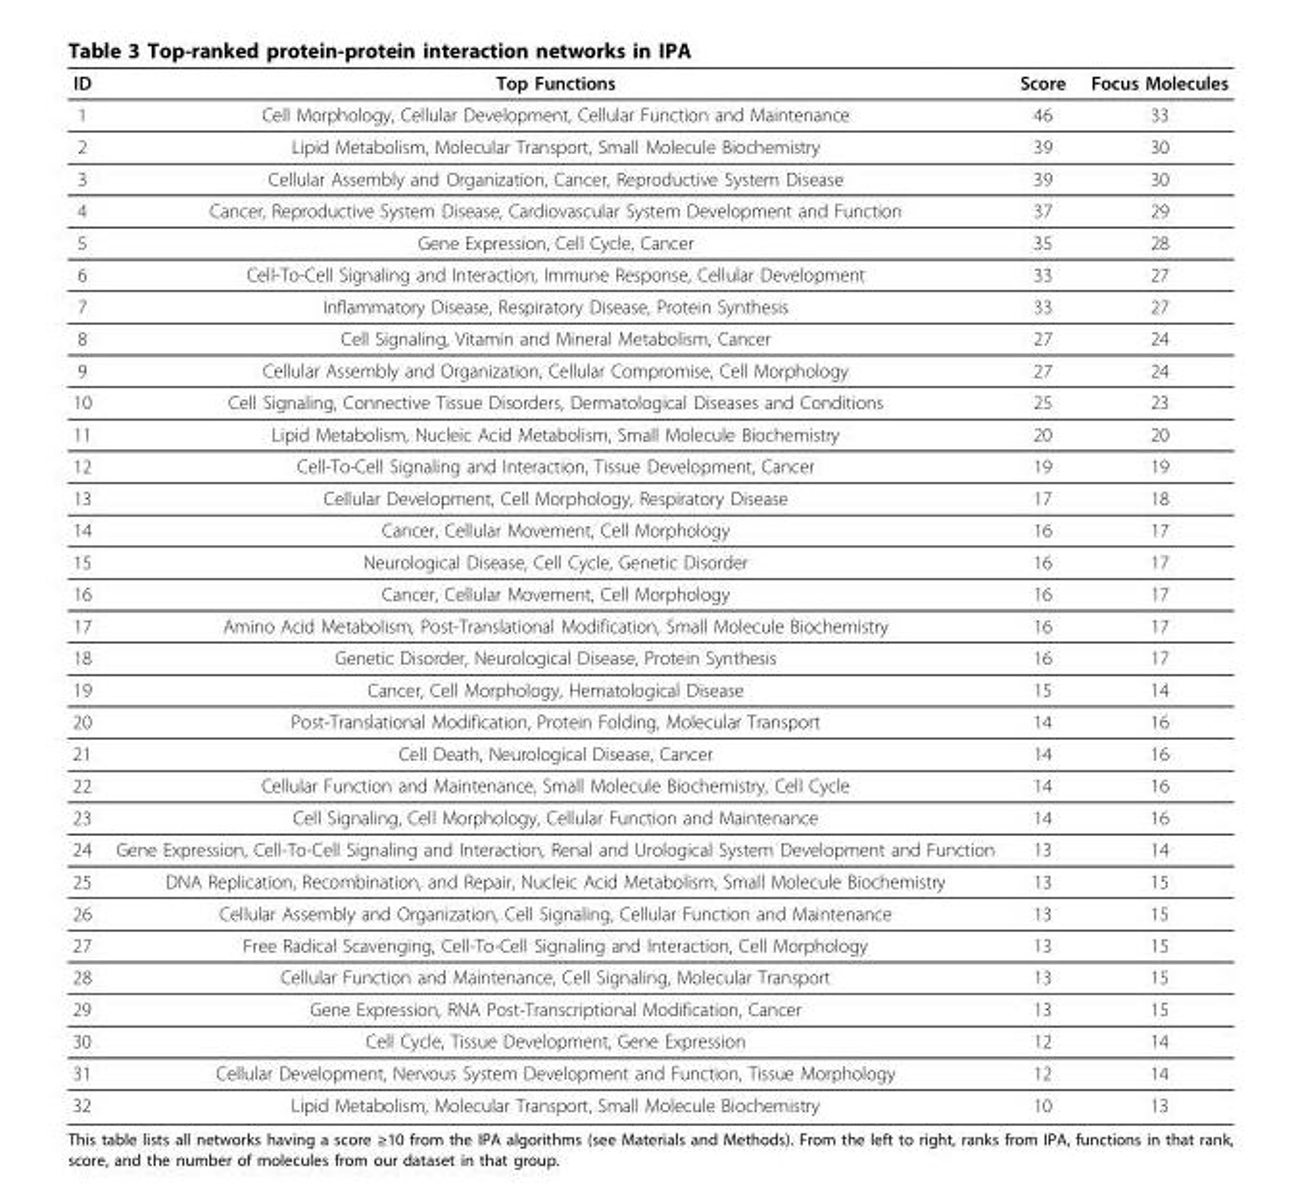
<table><thead><tr><td>ID</td><td>Top Functions</td><td>Score</td><td>Focus Molecules</td></tr></thead><tbody><tr><td>1</td><td>Cell Morphology, Cellular Development, Cellular Function and Maintenance</td><td>46</td><td>33</td></tr><tr><td>2</td><td>Lipid Metabolism, Molecular Transport, Small Molecule Biochemistry</td><td>39</td><td>30</td></tr><tr><td>3</td><td>Cellular Assembly and Organization, Cancer, Reproductive System Disease</td><td>39</td><td>30</td></tr><tr><td>4</td><td>Cancer, Reproductive System Disease, Cardiovascular System Development and Function</td><td>37</td><td>29</td></tr><tr><td>5</td><td>Gene Expression, Cell Cycle, Cancer</td><td>35</td><td>28</td></tr><tr><td>6</td><td>Cell-To-Cell Signaling and Interaction, Immune Response, Cellular Development</td><td>33</td><td>27</td></tr><tr><td>7</td><td>Inflammatory Disease, Respiratory Disease, Protein Synthesis</td><td>33</td><td>27</td></tr><tr><td>8</td><td>Cell Signaling, Vitamin and Mineral Metabolism, Cancer</td><td>27</td><td>24</td></tr><tr><td>9</td><td>Cellular Assembly and Organization, Cellular Compromise, Cell Morphology</td><td>27</td><td>24</td></tr><tr><td>10</td><td>Cell Signaling, Connective Tissue Disorders, Dermatological Diseases and Conditions</td><td>25</td><td>23</td></tr><tr><td>11</td><td>Lipid Metabolism, Nucleic Acid Metabolism, Small Molecule Biochemistry</td><td>20</td><td>20</td></tr><tr><td>12</td><td>Cell-To-Cell Signaling and Interaction, Tissue Development, Cancer</td><td>19</td><td>19</td></tr><tr><td>13</td><td>Cellular Development, Cell Morphology, Respiratory Disease</td><td>17</td><td>18</td></tr><tr><td>14</td><td>Cancer, Cellular Movement, Cell Morphology</td><td>16</td><td>17</td></tr><tr><td>15</td><td>Neurological Disease, Cell Cycle, Genetic Disorder</td><td>16</td><td>17</td></tr><tr><td>16</td><td>Cancer, Cellular Movement, Cell Morphology</td><td>16</td><td>17</td></tr><tr><td>17</td><td>Amino Acid Metabolism, Post-Translational Modification, Small Molecule Biochemistry</td><td>16</td><td>17</td></tr><tr><td>18</td><td>Genetic Disorder, Neurological Disease, Protein Synthesis</td><td>16</td><td>17</td></tr><tr><td>19</td><td>Cancer, Cell Morphology, Hematological Disease</td><td>15</td><td>14</td></tr><tr><td>20</td><td>Post-Translational Modification, Protein Folding, Molecular Transport</td><td>14</td><td>16</td></tr><tr><td>21</td><td>Cell Death, Neurological Disease, Cancer</td><td>14</td><td>16</td></tr><tr><td>22</td><td>Cellular Function and Maintenance, Small Molecule Biochemistry, Cell Cycle</td><td>14</td><td>16</td></tr><tr><td>23</td><td>Cell Signaling, Cell Morphology, Cellular Function and Maintenance</td><td>14</td><td>16</td></tr><tr><td>24</td><td>Gene Expression, Cell-To-Cell Signaling and Interaction, Renal and Urological System Development and Function</td><td>13</td><td>14</td></tr><tr><td>25</td><td>DNA Replication, Recombination, and Repair, Nucleic Acid Metabolism, Small Molecule Biochemistry</td><td>13</td><td>15</td></tr><tr><td>26</td><td>Cellular Assembly and Organization, Cell Signaling, Cellular Function and Maintenance</td><td>13</td><td>15</td></tr><tr><td>27</td><td>Free Radical Scavenging, Cell-To-Cell Signaling and Interaction, Cell Morphology</td><td>13</td><td>15</td></tr><tr><td>28</td><td>Cellular Function and Maintenance, Cell Signaling, Molecular Transport</td><td>13</td><td>15</td></tr><tr><td>29</td><td>Gene Expression, RNA Post-Transcriptional Modification, Cancer</td><td>13</td><td>15</td></tr><tr><td>30</td><td>Cell Cycle, Tissue Development, Gene Expression</td><td>12</td><td>14</td></tr><tr><td>31</td><td>Cellular Development, Nervous System Development and Function, Tissue Morphology</td><td>12</td><td>14</td></tr><tr><td>32</td><td>Lipid Metabolism, Molecular Transport, Small Molecule Biochemistry</td><td>10</td><td>13</td></tr></tbody></table>